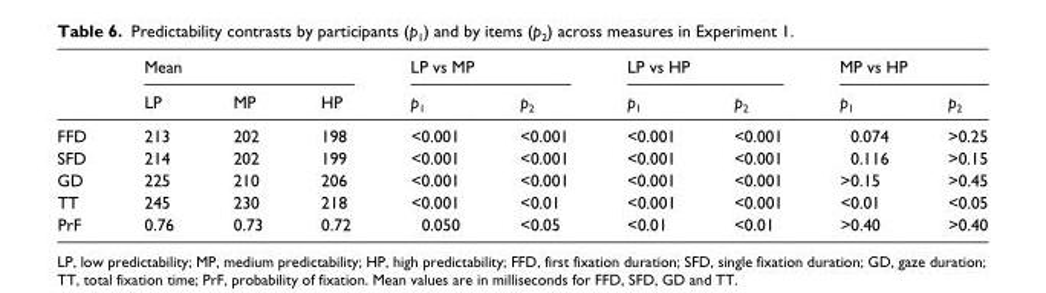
<table><thead><tr><td rowspan="2"></td><td colspan="3">Mean</td><td colspan="2">LP vs MP</td><td colspan="2">LP vs HP</td><td colspan="2">MP vs HP</td></tr><tr><td>LP</td><td>MP</td><td>HP</td><td>p<sub>1</sub></td><td>p<sub>2</sub></td><td>p<sub>1</sub></td><td>p<sub>2</sub></td><td>p<sub>1</sub></td><td>p<sub>2</sub></td></tr></thead><tbody><tr><td>FFD</td><td>213</td><td>202</td><td>198</td><td>&lt;0.001</td><td>&lt;0.001</td><td>&lt;0.001</td><td>&lt;0.001</td><td>0.074</td><td>&gt;0.25</td></tr><tr><td>SFD</td><td>214</td><td>202</td><td>199</td><td>&lt;0.001</td><td>&lt;0.001</td><td>&lt;0.001</td><td>&lt;0.001</td><td>0.116</td><td>&gt;0.15</td></tr><tr><td>GD</td><td>225</td><td>210</td><td>206</td><td>&lt;0.001</td><td>&lt;0.001</td><td>&lt;0.001</td><td>&lt;0.001</td><td>&gt;0.15</td><td>&gt;0.45</td></tr><tr><td>TT</td><td>245</td><td>230</td><td>218</td><td>&lt;0.001</td><td>&lt;0.01</td><td>&lt;0.001</td><td>&lt;0.001</td><td>&lt;0.01</td><td>&lt;0.05</td></tr><tr><td>PrF</td><td>0.76</td><td>0.73</td><td>0.72</td><td>0.050</td><td>&lt;0.05</td><td>&lt;0.01</td><td>&lt;0.01</td><td>&gt;0.40</td><td>&gt;0.40</td></tr></tbody></table>